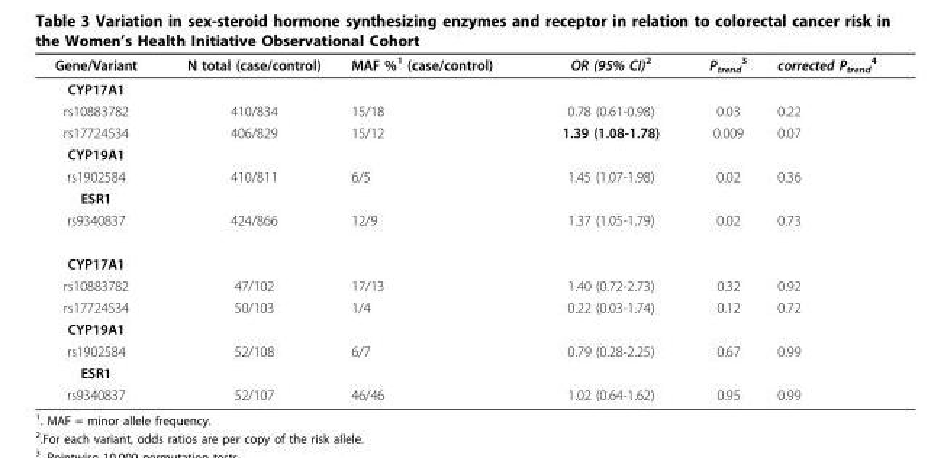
<table><thead><tr><td>Gene/Variant</td><td>N total (case/control)</td><td>MAF %<sup>1</sup> (case/control)</td><td>OR (95% CI)<sup>2</sup></td><td>P<sub>trend</sub> <sup>3</sup></td><td>corrected P<sub>trend</sub> <sup>4</sup></td></tr></thead><tbody><tr><td colspan="6">CYP17A1</td></tr><tr><td>rs10883782</td><td>410/834</td><td>15/18</td><td>0.78 (0.61-0.98)</td><td>0.03</td><td>0.22</td></tr><tr><td>rs17724534</td><td>406/829</td><td>15/12</td><td>1.39 (1.08-1.78)</td><td>0.009</td><td>0.07</td></tr><tr><td colspan="6">CYP19A1</td></tr><tr><td>rs1902584</td><td>410/811</td><td>6/5</td><td>1.45 (1.07-1.98)</td><td>0.02</td><td>0.36</td></tr><tr><td colspan="6">ESR1</td></tr><tr><td>rs9340837</td><td>424/866</td><td>12/9</td><td>1.37 (1.05-1.79)</td><td>0.02</td><td>0.73</td></tr><tr><td colspan="6">CYP17A1</td></tr><tr><td>rs10883782</td><td>47/102</td><td>17/13</td><td>1.40 (0.72-2.73)</td><td>0.32</td><td>0.92</td></tr><tr><td>rs17724534</td><td>50/103</td><td>1/4</td><td>0.22 (0.03-1.74)</td><td>0.12</td><td>0.72</td></tr><tr><td colspan="6">CYP19A1</td></tr><tr><td>rs1902584</td><td>52/108</td><td>6/7</td><td>0.79 (0.28-2.25)</td><td>0.67</td><td>0.99</td></tr><tr><td colspan="6">ESR1</td></tr><tr><td>rs9340837</td><td>52/107</td><td>46/46</td><td>1.02 (0.64-1.62)</td><td>0.95</td><td>0.99</td></tr></tbody></table>